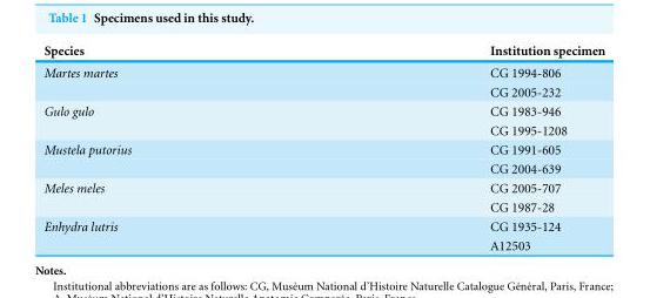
<table><thead><tr><td>Species</td><td>Institution specimen</td></tr></thead><tbody><tr><td rowspan="2">Martes martes</td><td>CG 1994-806</td></tr><tr><td>CG 2005-232</td></tr><tr><td rowspan="2">Gulo gulo</td><td>CG 1983-946</td></tr><tr><td>CG 1995-1208</td></tr><tr><td rowspan="2">Mustela putorius</td><td>CG 1991-605</td></tr><tr><td>CG 2004-639</td></tr><tr><td rowspan="2">Meles meles</td><td>CG 2005-707</td></tr><tr><td>CG 1987-28</td></tr><tr><td rowspan="2">Enhydra lutris</td><td>CG 1935-124</td></tr><tr><td>A12503</td></tr></tbody></table>